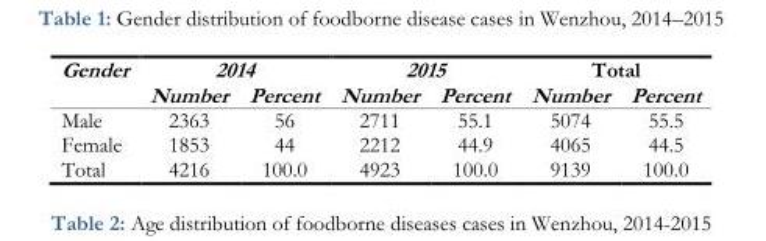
<table><thead><tr><td rowspan="2">Gender</td><td colspan="2">2014</td><td colspan="2">2015</td><td colspan="2">Total</td></tr><tr><td>Number</td><td>Percent</td><td>Number</td><td>Percent</td><td>Number</td><td>Percent</td></tr></thead><tbody><tr><td>Male</td><td>2363</td><td>56</td><td>2711</td><td>55.1</td><td>5074</td><td>55.5</td></tr><tr><td>Female</td><td>1853</td><td>44</td><td>2212</td><td>44.9</td><td>4065</td><td>44.5</td></tr><tr><td>Total</td><td>4216</td><td>100.0</td><td>4923</td><td>100.0</td><td>9139</td><td>100.0</td></tr></tbody></table>